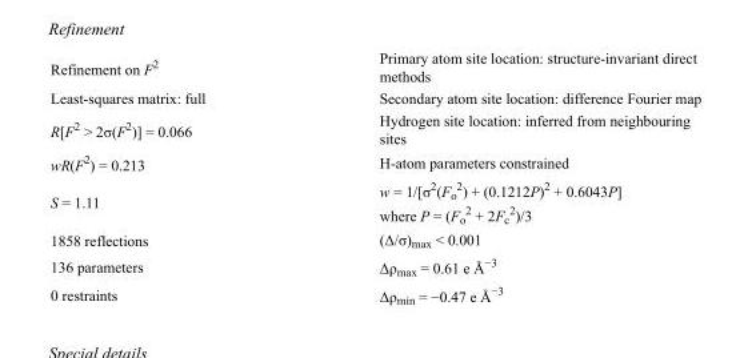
<table><tbody><tr><td>Refinement on F<sup>2</sup></td><td>Primary atom site location: structure-invariant direct methods</td></tr><tr><td>Least-squares matrix: full</td><td>Secondary atom site location: difference Fourier map</td></tr><tr><td>R[F<sup>2</sup> &gt; 2σ(F<sup>2</sup>)] = 0.066</td><td>Hydrogen site location: inferred from neighbouring sites</td></tr><tr><td>wR(F<sup>2</sup>) = 0.213</td><td>H-atom parameters constrained</td></tr><tr><td>S = 1.11</td><td>w = 1/[σ<sup>2</sup>(F<sub>o</sub> <sup>2</sup>) + (0.1212P)<sup>2</sup> + 0.6043P] where P = (F<sub>o</sub> <sup>2</sup> + 2F<sub>c</sub> <sup>2</sup>)/3</td></tr><tr><td>1858 reflections</td><td>(Δ/σ)<sub>max</sub> &lt; 0.001</td></tr><tr><td>136 parameters</td><td>Δρ<sub>max</sub> = 0.61 e Å<sup>−3</sup></td></tr><tr><td>0 restraints</td><td>Δρ<sub>min</sub> = −0.47 e Å<sup>−3</sup></td></tr></tbody></table>